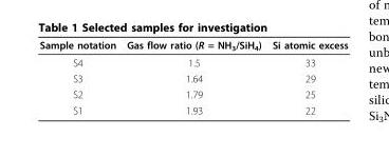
<table><thead><tr><td>Sample notation</td><td>Gas flow ratio (R = NH<sub>3</sub>/SiH<sub>4</sub>)</td><td>Si atomic excess</td></tr></thead><tbody><tr><td>S4</td><td>1.5</td><td>33</td></tr><tr><td>S3</td><td>1.64</td><td>29</td></tr><tr><td>S2</td><td>1.79</td><td>25</td></tr><tr><td>S1</td><td>1.93</td><td>22</td></tr></tbody></table>